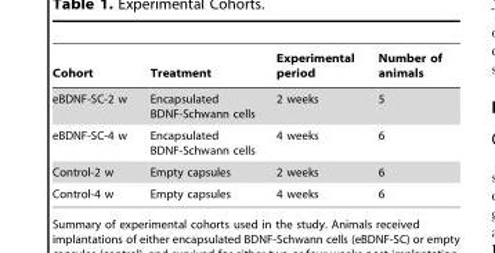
<table><thead><tr><td>Cohort</td><td>Treatment</td><td>Experimental period</td><td>Number of animals</td></tr></thead><tbody><tr><td>eBDNF-SC-2 w</td><td>Encapsulated BDNF-Schwann cells</td><td>2 weeks</td><td>5</td></tr><tr><td>eBDNF-SC-4 w</td><td>Encapsulated BDNF-Schwann cells</td><td>4 weeks</td><td>6</td></tr><tr><td>Control-2 w</td><td>Empty capsules</td><td>2 weeks</td><td>6</td></tr><tr><td>Control-4 w</td><td>Empty capsules</td><td>4 weeks</td><td>6</td></tr></tbody></table>